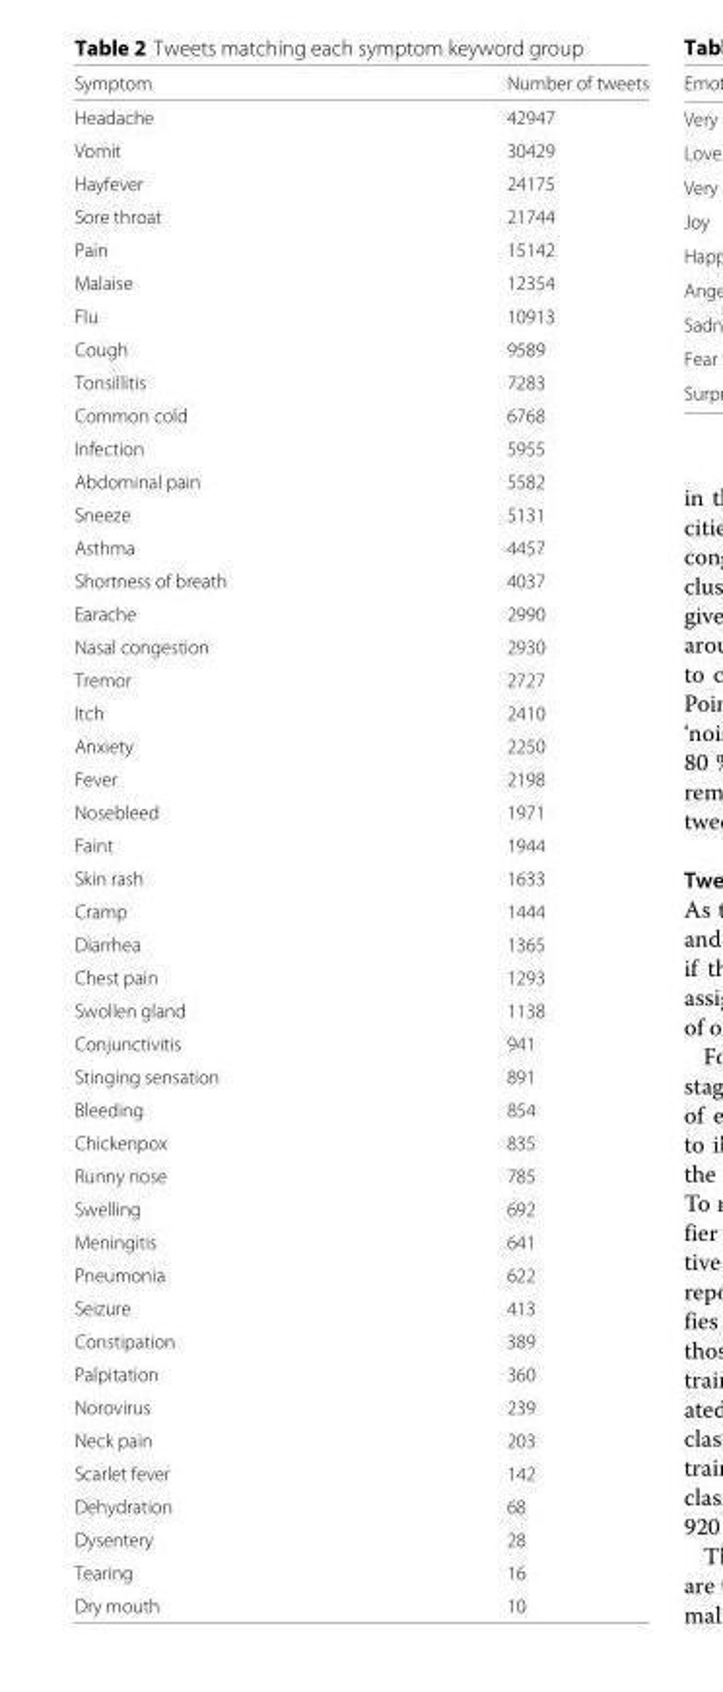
<table><thead><tr><td>Symptom</td><td>Number of tweets</td></tr></thead><tbody><tr><td>Headache</td><td>42947</td></tr><tr><td>Vomit</td><td>30429</td></tr><tr><td>Hayfever</td><td>24175</td></tr><tr><td>Sore throat</td><td>21744</td></tr><tr><td>Pain</td><td>15142</td></tr><tr><td>Malaise</td><td>12354</td></tr><tr><td>Flu</td><td>10913</td></tr><tr><td>Cough</td><td>9589</td></tr><tr><td>Tonsillitis</td><td>7283</td></tr><tr><td>Common cold</td><td>6768</td></tr><tr><td>Infection</td><td>5955</td></tr><tr><td>Abdominal pain</td><td>5582</td></tr><tr><td>Sneeze</td><td>5131</td></tr><tr><td>Asthma</td><td>4457</td></tr><tr><td>Shortness of breath</td><td>4037</td></tr><tr><td>Earache</td><td>2990</td></tr><tr><td>Nasal congestion</td><td>2930</td></tr><tr><td>Tremor</td><td>2727</td></tr><tr><td>Itch</td><td>2410</td></tr><tr><td>Anxiety</td><td>2250</td></tr><tr><td>Fever</td><td>2198</td></tr><tr><td>Nosebleed</td><td>1971</td></tr><tr><td>Faint</td><td>1944</td></tr><tr><td>Skin rash</td><td>1633</td></tr><tr><td>Cramp</td><td>1444</td></tr><tr><td>Diarrhea</td><td>1365</td></tr><tr><td>Chest pain</td><td>1293</td></tr><tr><td>Swollen gland</td><td>1138</td></tr><tr><td>Conjunctivitis</td><td>941</td></tr><tr><td>Stinging sensation</td><td>891</td></tr><tr><td>Bleeding</td><td>854</td></tr><tr><td>Chickenpox</td><td>835</td></tr><tr><td>Runny nose</td><td>785</td></tr><tr><td>Swelling</td><td>692</td></tr><tr><td>Meningitis</td><td>641</td></tr><tr><td>Pneumonia</td><td>622</td></tr><tr><td>Seizure</td><td>413</td></tr><tr><td>Constipation</td><td>389</td></tr><tr><td>Palpitation</td><td>360</td></tr><tr><td>Norovirus</td><td>239</td></tr><tr><td>Neck pain</td><td>203</td></tr><tr><td>Scarlet fever</td><td>142</td></tr><tr><td>Dehydration</td><td>68</td></tr><tr><td>Dysentery</td><td>28</td></tr><tr><td>Tearing</td><td>16</td></tr><tr><td>Dry mouth</td><td>10</td></tr></tbody></table>